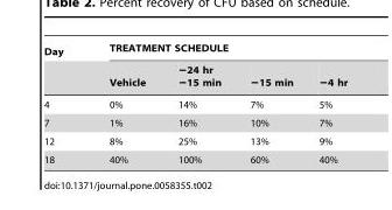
<table><thead><tr><td rowspan="2">Day</td><td colspan="4">TREATMENT SCHEDULE</td></tr><tr><td>Vehicle</td><td>−24 hr −15 min</td><td>−15 min</td><td>−4 hr</td></tr></thead><tbody><tr><td>4</td><td>0%</td><td>14%</td><td>7%</td><td>5%</td></tr><tr><td>7</td><td>1%</td><td>16%</td><td>10%</td><td>7%</td></tr><tr><td>12</td><td>8%</td><td>25%</td><td>13%</td><td>9%</td></tr><tr><td>18</td><td>40%</td><td>100%</td><td>60%</td><td>40%</td></tr></tbody></table>